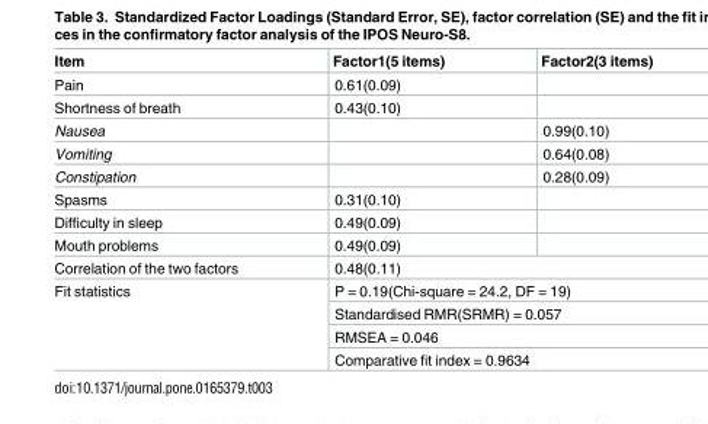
<table><thead><tr><td>Item</td><td>Factor1(5 items)</td><td>Factor2(3 items)</td></tr></thead><tbody><tr><td>Pain</td><td>0.61(0.09)</td><td></td></tr><tr><td>Shortness of breath</td><td>0.43(0.10)</td><td></td></tr><tr><td>Nausea</td><td></td><td>0.99(0.10)</td></tr><tr><td>Vomiting</td><td></td><td>0.64(0.08)</td></tr><tr><td>Constipation</td><td></td><td>0.28(0.09)</td></tr><tr><td>Spasms</td><td>0.31(0.10)</td><td></td></tr><tr><td>Difficulty in sleep</td><td>0.49(0.09)</td><td></td></tr><tr><td>Mouth problems</td><td>0.49(0.09)</td><td></td></tr><tr><td>Correlation of the two factors</td><td colspan="2">0.48(0.11)</td></tr><tr><td rowspan="4">Fit statistics</td><td colspan="2">P = 0.19(Chi-square = 24.2, DF = 19)</td></tr><tr><td colspan="2">Standardised RMR(SRMR) = 0.057</td></tr><tr><td colspan="2">RMSEA = 0.046</td></tr><tr><td colspan="2">Comparative fit index = 0.9634</td></tr></tbody></table>